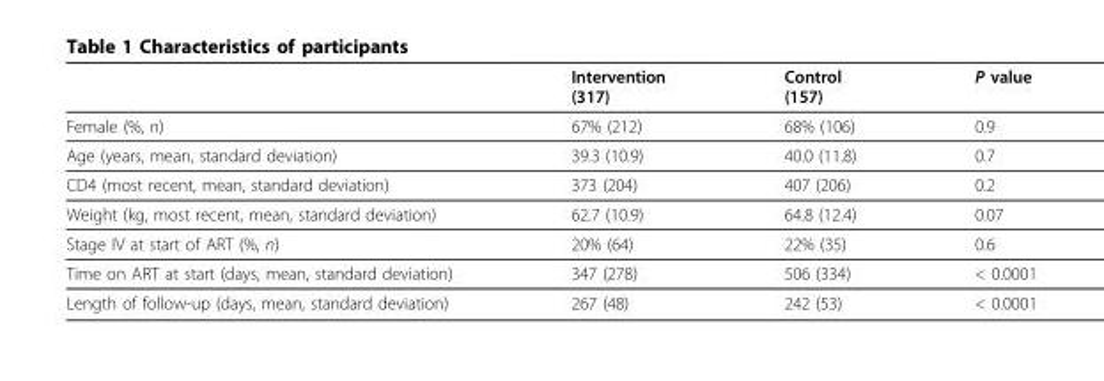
<table><thead><tr><td></td><td>Intervention (317)</td><td>Control (157)</td><td>P value</td></tr></thead><tbody><tr><td>Female (%, n)</td><td>67% (212)</td><td>68% (106)</td><td>0.9</td></tr><tr><td>Age (years, mean, standard deviation)</td><td>39.3 (10.9)</td><td>40.0 (11.8)</td><td>0.7</td></tr><tr><td>CD4 (most recent, mean, standard deviation)</td><td>373 (204)</td><td>407 (206)</td><td>0.2</td></tr><tr><td>Weight (kg, most recent, mean, standard deviation)</td><td>62.7 (10.9)</td><td>64.8 (12.4)</td><td>0.07</td></tr><tr><td>Stage IV at start of ART (%, n)</td><td>20% (64)</td><td>22% (35)</td><td>0.6</td></tr><tr><td>Time on ART at start (days, mean, standard deviation)</td><td>347 (278)</td><td>506 (334)</td><td>&lt; 0.0001</td></tr><tr><td>Length of follow-up (days, mean, standard deviation)</td><td>267 (48)</td><td>242 (53)</td><td>&lt; 0.0001</td></tr></tbody></table>